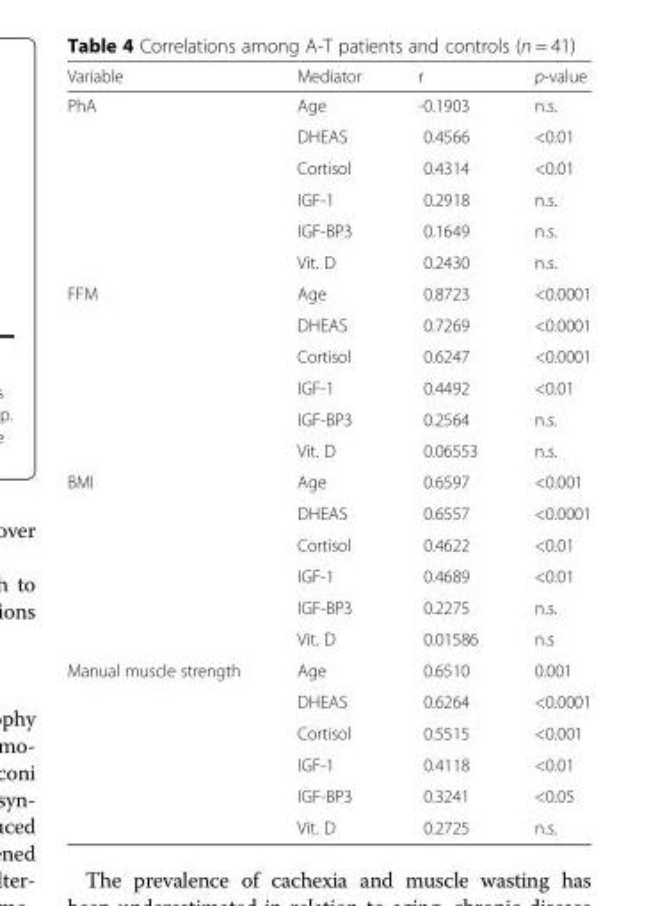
<table><thead><tr><td>Variable</td><td>Mediator</td><td>r</td><td>p-value</td></tr></thead><tbody><tr><td rowspan="6">PhA</td><td>Age</td><td>-0.1903</td><td>n.s.</td></tr><tr><td>DHEAS</td><td>0.4566</td><td>&lt;0.01</td></tr><tr><td>Cortisol</td><td>0.4314</td><td>&lt;0.01</td></tr><tr><td>IGF-1</td><td>0.2918</td><td>n.s.</td></tr><tr><td>IGF-BP3</td><td>0.1649</td><td>n.s.</td></tr><tr><td>Vit. D</td><td>0.2430</td><td>n.s.</td></tr><tr><td rowspan="6">FFM</td><td>Age</td><td>0.8723</td><td>&lt;0.0001</td></tr><tr><td>DHEAS</td><td>0.7269</td><td>&lt;0.0001</td></tr><tr><td>Cortisol</td><td>0.6247</td><td>&lt;0.0001</td></tr><tr><td>IGF-1</td><td>0.4492</td><td>&lt;0.01</td></tr><tr><td>IGF-BP3</td><td>0.2564</td><td>n.s.</td></tr><tr><td>Vit. D</td><td>0.06553</td><td>n.s.</td></tr><tr><td rowspan="6">BMI</td><td>Age</td><td>0.6597</td><td>&lt;0.001</td></tr><tr><td>DHEAS</td><td>0.6557</td><td>&lt;0.0001</td></tr><tr><td>Cortisol</td><td>0.4622</td><td>&lt;0.01</td></tr><tr><td>IGF-1</td><td>0.4689</td><td>&lt;0.01</td></tr><tr><td>IGF-BP3</td><td>0.2275</td><td>n.s.</td></tr><tr><td>Vit. D</td><td>0.01586</td><td>n.s</td></tr><tr><td rowspan="6">Manual muscle strength</td><td>Age</td><td>0.6510</td><td>0.001</td></tr><tr><td>DHEAS</td><td>0.6264</td><td>&lt;0.0001</td></tr><tr><td>Cortisol</td><td>0.5515</td><td>&lt;0.001</td></tr><tr><td>IGF-1</td><td>0.4118</td><td>&lt;0.01</td></tr><tr><td>IGF-BP3</td><td>0.3241</td><td>&lt;0.05</td></tr><tr><td>Vit. D</td><td>0.2725</td><td>n.s.</td></tr></tbody></table>